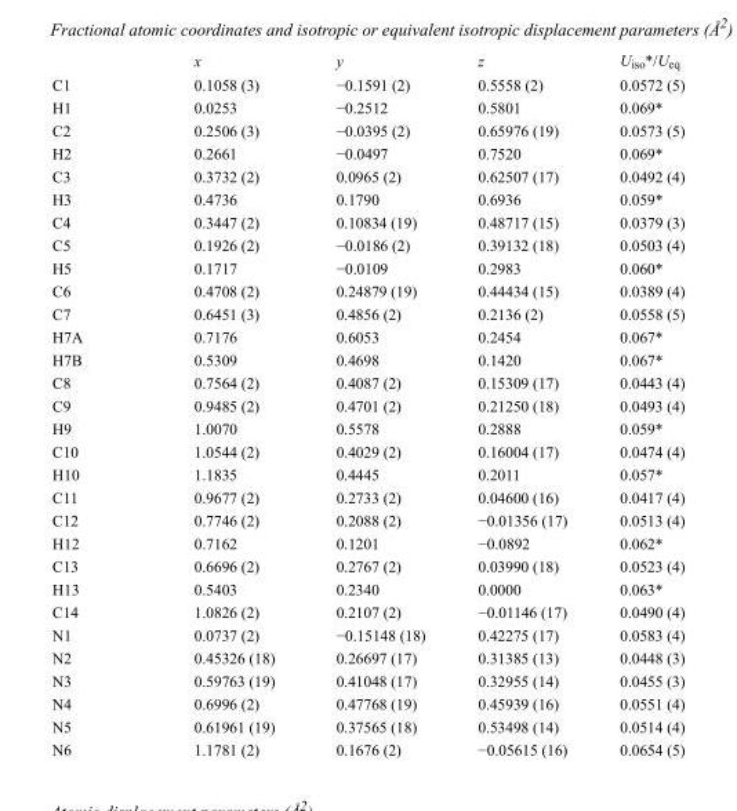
<table><thead><tr><td></td><td>x</td><td>y</td><td>z</td><td>U<sub>iso</sub>*/U<sub>eq</sub></td></tr></thead><tbody><tr><td>C1</td><td>0.1058 (3)</td><td>−0.1591 (2)</td><td>0.5558 (2)</td><td>0.0572 (5)</td></tr><tr><td>H1</td><td>0.0253</td><td>−0.2512</td><td>0.5801</td><td>0.069*</td></tr><tr><td>C2</td><td>0.2506 (3)</td><td>−0.0395 (2)</td><td>0.65976 (19)</td><td>0.0573 (5)</td></tr><tr><td>H2</td><td>0.2661</td><td>−0.0497</td><td>0.7520</td><td>0.069*</td></tr><tr><td>C3</td><td>0.3732 (2)</td><td>0.0965 (2)</td><td>0.62507 (17)</td><td>0.0492 (4)</td></tr><tr><td>H3</td><td>0.4736</td><td>0.1790</td><td>0.6936</td><td>0.059*</td></tr><tr><td>C4</td><td>0.3447 (2)</td><td>0.10834 (19)</td><td>0.48717 (15)</td><td>0.0379 (3)</td></tr><tr><td>C5</td><td>0.1926 (2)</td><td>−0.0186 (2)</td><td>0.39132 (18)</td><td>0.0503 (4)</td></tr><tr><td>H5</td><td>0.1717</td><td>−0.0109</td><td>0.2983</td><td>0.060*</td></tr><tr><td>C6</td><td>0.4708 (2)</td><td>0.24879 (19)</td><td>0.44434 (15)</td><td>0.0389 (4)</td></tr><tr><td>C7</td><td>0.6451 (3)</td><td>0.4856 (2)</td><td>0.2136 (2)</td><td>0.0558 (5)</td></tr><tr><td>H7A</td><td>0.7176</td><td>0.6053</td><td>0.2454</td><td>0.067*</td></tr><tr><td>H7B</td><td>0.5309</td><td>0.4698</td><td>0.1420</td><td>0.067*</td></tr><tr><td>C8</td><td>0.7564 (2)</td><td>0.4087 (2)</td><td>0.15309 (17)</td><td>0.0443 (4)</td></tr><tr><td>C9</td><td>0.9485 (2)</td><td>0.4701 (2)</td><td>0.21250 (18)</td><td>0.0493 (4)</td></tr><tr><td>H9</td><td>1.0070</td><td>0.5578</td><td>0.2888</td><td>0.059*</td></tr><tr><td>C10</td><td>1.0544 (2)</td><td>0.4029 (2)</td><td>0.16004 (17)</td><td>0.0474 (4)</td></tr><tr><td>H10</td><td>1.1835</td><td>0.4445</td><td>0.2011</td><td>0.057*</td></tr><tr><td>C11</td><td>0.9677 (2)</td><td>0.2733 (2)</td><td>0.04600 (16)</td><td>0.0417 (4)</td></tr><tr><td>C12</td><td>0.7746 (2)</td><td>0.2088 (2)</td><td>−0.01356 (17)</td><td>0.0513 (4)</td></tr><tr><td>H12</td><td>0.7162</td><td>0.1201</td><td>−0.0892</td><td>0.062*</td></tr><tr><td>C13</td><td>0.6696 (2)</td><td>0.2767 (2)</td><td>0.03990 (18)</td><td>0.0523 (4)</td></tr><tr><td>H13</td><td>0.5403</td><td>0.2340</td><td>0.0000</td><td>0.063*</td></tr><tr><td>C14</td><td>1.0826 (2)</td><td>0.2107 (2)</td><td>−0.01146 (17)</td><td>0.0490 (4)</td></tr><tr><td>N1</td><td>0.0737 (2)</td><td>−0.15148 (18)</td><td>0.42275 (17)</td><td>0.0583 (4)</td></tr><tr><td>N2</td><td>0.45326 (18)</td><td>0.26697 (17)</td><td>0.31385 (13)</td><td>0.0448 (3)</td></tr><tr><td>N3</td><td>0.59763 (19)</td><td>0.41048 (17)</td><td>0.32955 (14)</td><td>0.0455 (3)</td></tr><tr><td>N4</td><td>0.6996 (2)</td><td>0.47768 (19)</td><td>0.45939 (16)</td><td>0.0551 (4)</td></tr><tr><td>N5</td><td>0.61961 (19)</td><td>0.37565 (18)</td><td>0.53498 (14)</td><td>0.0514 (4)</td></tr><tr><td>N6</td><td>1.1781 (2)</td><td>0.1676 (2)</td><td>−0.05615 (16)</td><td>0.0654 (5)</td></tr></tbody></table>